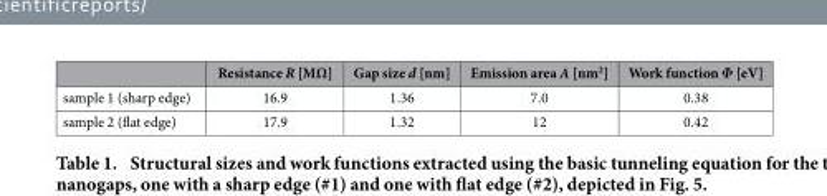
<table><thead><tr><td></td><td>Resistance R [MΩ]</td><td>Gap size d [nm]</td><td>Emission area A [nm<sup>2</sup>]</td><td>Work function Φ [eV]</td></tr></thead><tbody><tr><td>sample 1 (sharp edge)</td><td>16.9</td><td>1.36</td><td>7.0</td><td>0.38</td></tr><tr><td>sample 2 (flat edge)</td><td>17.9</td><td>1.32</td><td>12</td><td>0.42</td></tr></tbody></table>